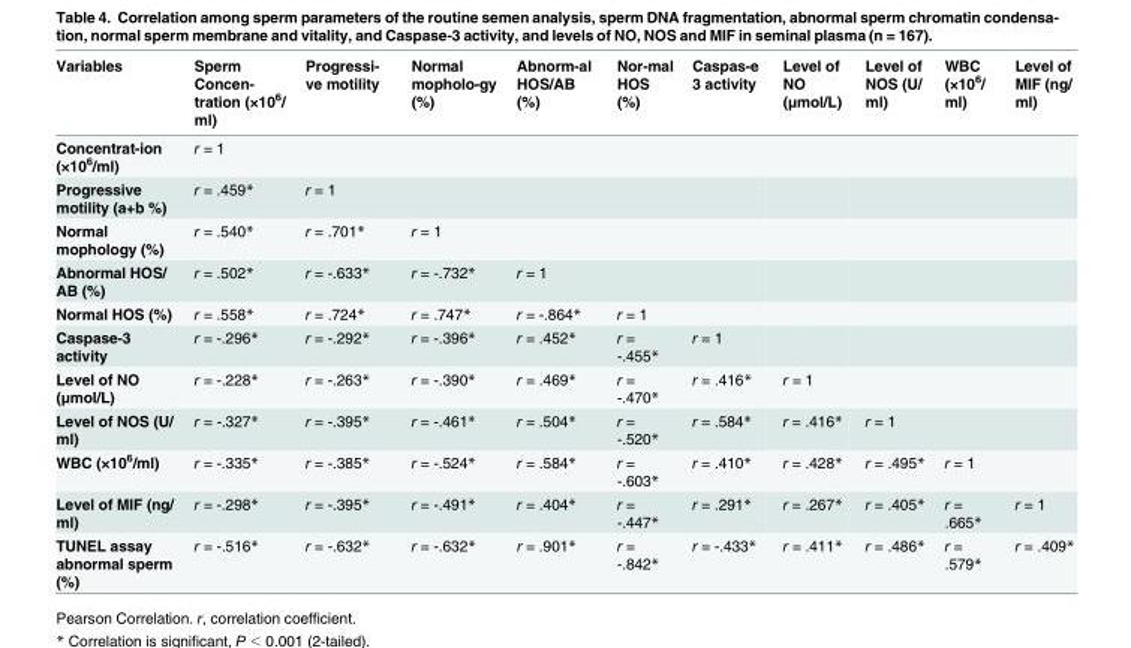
<table><thead><tr><td>Variables</td><td>Sperm Concen- tration (×10<sup>6</sup>/ ml)</td><td>Progressi- ve motility</td><td>Normal mopholo-gy (%)</td><td>Abnorm-al HOS/AB (%)</td><td>Nor-mal HOS (%)</td><td>Caspas-e 3 activity</td><td>Level of NO (μmol/L)</td><td>Level of NOS (U/ ml)</td><td>WBC (×10<sup>6</sup>/ ml)</td><td>Level of MIF (ng/ ml)</td></tr></thead><tbody><tr><td>Concentrat-ion (×10<sup>6</sup>/ml)</td><td>r = 1</td><td></td><td></td><td></td><td></td><td></td><td></td><td></td><td></td><td></td></tr><tr><td>Progressive motility (a+b %)</td><td>r = .459*</td><td>r = 1</td><td></td><td></td><td></td><td></td><td></td><td></td><td></td><td></td></tr><tr><td>Normal mophology (%)</td><td>r = .540*</td><td>r = .701*</td><td>r = 1</td><td></td><td></td><td></td><td></td><td></td><td></td><td></td></tr><tr><td>Abnormal HOS/ AB (%)</td><td>r = .502*</td><td>r = -.633*</td><td>r = -.732*</td><td>r = 1</td><td></td><td></td><td></td><td></td><td></td><td></td></tr><tr><td>Normal HOS (%)</td><td>r = .558*</td><td>r = .724*</td><td>r = .747*</td><td>r = -.864*</td><td>r = 1</td><td></td><td></td><td></td><td></td><td></td></tr><tr><td>Caspase-3 activity</td><td>r = -.296*</td><td>r = -.292*</td><td>r = -.396*</td><td>r = .452*</td><td>r = -.455*</td><td>r = 1</td><td></td><td></td><td></td><td></td></tr><tr><td>Level of NO (μmol/L)</td><td>r = -.228*</td><td>r = -.263*</td><td>r = -.390*</td><td>r = .469*</td><td>r = -.470*</td><td>r = .416*</td><td>r = 1</td><td></td><td></td><td></td></tr><tr><td>Level of NOS (U/ ml)</td><td>r = -.327*</td><td>r = -.395*</td><td>r = -.461*</td><td>r = .504*</td><td>r = -.520*</td><td>r = .584*</td><td>r = .416*</td><td>r = 1</td><td></td><td></td></tr><tr><td>WBC (×10<sup>6</sup>/ml)</td><td>r = -.335*</td><td>r = -.385*</td><td>r = -.524*</td><td>r = .584*</td><td>r = -.603*</td><td>r = .410*</td><td>r = .428*</td><td>r = .495*</td><td>r = 1</td><td></td></tr><tr><td>Level of MIF (ng/ ml)</td><td>r = -.298*</td><td>r = -.395*</td><td>r = -.491*</td><td>r = .404*</td><td>r = -.447*</td><td>r = .291*</td><td>r = .267*</td><td>r = .405*</td><td>r = .665*</td><td>r = 1</td></tr><tr><td>TUNEL assay abnormal sperm (%)</td><td>r = -.516*</td><td>r = -.632*</td><td>r = -.632*</td><td>r = .901*</td><td>r = -.842*</td><td>r = -.433*</td><td>r = .411*</td><td>r = .486*</td><td>r = .579*</td><td>r = .409*</td></tr></tbody></table>